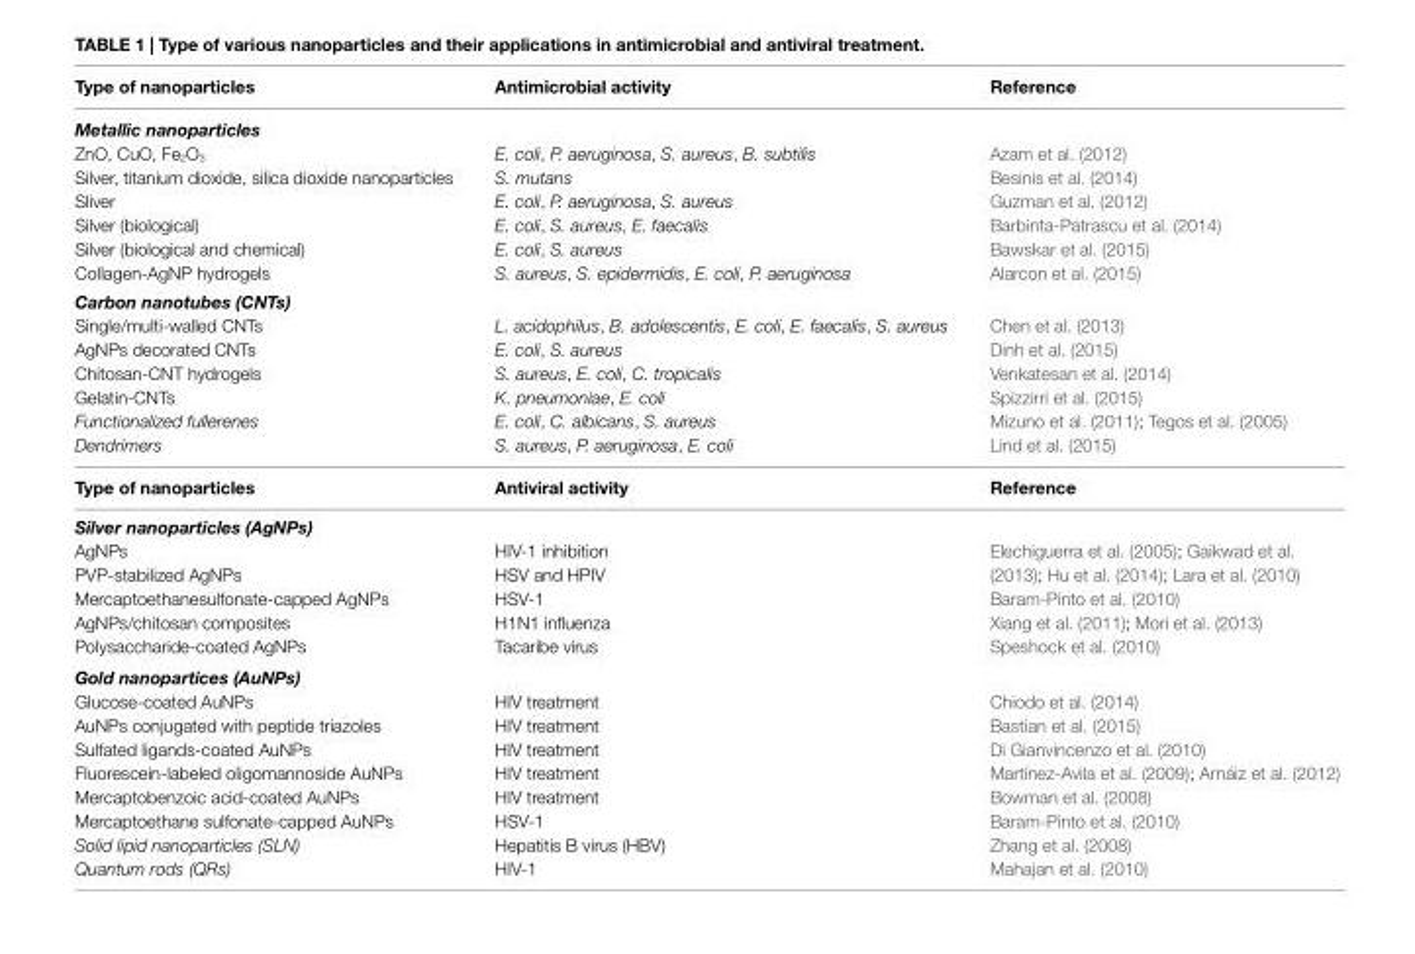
<table><thead><tr><td>Type of nanoparticles</td><td>Antimicrobial activity</td><td>Reference</td></tr></thead><tbody><tr><td colspan="3">Metallic nanoparticles</td></tr><tr><td>ZnO, CuO, Fe<sub>2</sub>O<sub>3</sub></td><td>E. coli, P. aeruginosa, S. aureus, B. subtilis</td><td>Azam et al. (2012)</td></tr><tr><td>Silver, titanium dioxide, silica dioxide nanoparticles</td><td>S. mutans</td><td>Besinis et al. (2014)</td></tr><tr><td>Sliver</td><td>E. coli, P. aeruginosa, S. aureus</td><td>Guzman et al. (2012)</td></tr><tr><td>Silver (biological)</td><td>E. coli, S. aureus, E. faecalis</td><td>Barbinta-Patrascu et al. (2014)</td></tr><tr><td>Silver (biological and chemical)</td><td>E. coli, S. aureus</td><td>Bawskar et al. (2015)</td></tr><tr><td>Collagen-AgNP hydrogels</td><td>S. aureus, S. epidermidis, E. coli, P. aeruginosa</td><td>Alarcon et al. (2015)</td></tr><tr><td colspan="3">Carbon nanotubes (CNTs)</td></tr><tr><td>Single/multi-walled CNTs</td><td>L. acidophilus, B. adolescentis, E. coli, E. faecalis, S. aureus</td><td>Chen et al. (2013)</td></tr><tr><td>AgNPs decorated CNTs</td><td>E. coli, S. aureus</td><td>Dinh et al. (2015)</td></tr><tr><td>Chitosan-CNT hydrogels</td><td>S. aureus, E. coli, C. tropicalis</td><td>Venkatesan et al. (2014)</td></tr><tr><td>Gelatin-CNTs</td><td>K. pneumoniae, E. coli</td><td>Spizzirri et al. (2015)</td></tr><tr><td>Functionalized fullerenes</td><td>E. coli, C. albicans, S. aureus</td><td>Mizuno et al. (2011); Tegos et al. (2005)</td></tr><tr><td>Dendrimers</td><td>S. aureus, P. aeruginosa, E. coli</td><td>Lind et al. (2015)</td></tr><tr><td>Type of nanoparticles</td><td>Antiviral activity</td><td>Reference</td></tr><tr><td colspan="3">Silver nanoparticles (AgNPs)</td></tr><tr><td>AgNPs</td><td>HIV-1 inhibition</td><td rowspan="2">Elechiguerra et al. (2005); Gaikwad et al. (2013); Hu et al. (2014); Lara et al. (2010)</td></tr><tr><td>PVP-stabilized AgNPs</td><td>HSV and HPIV</td></tr><tr><td>Mercaptoethanesulfonate-capped AgNPs</td><td>HSV-1</td><td>Baram-Pinto et al. (2010)</td></tr><tr><td>AgNPs/chitosan composites</td><td>H1N1 influenza</td><td>Xiang et al. (2011); Mori et al. (2013)</td></tr><tr><td>Polysaccharide-coated AgNPs</td><td>Tacaribe virus</td><td>Speshock et al. (2010)</td></tr><tr><td colspan="3">Gold nanopartices (AuNPs)</td></tr><tr><td>Glucose-coated AuNPs</td><td>HIV treatment</td><td>Chiodo et al. (2014)</td></tr><tr><td>AuNPs conjugated with peptide triazoles</td><td>HIV treatment</td><td>Bastian et al. (2015)</td></tr><tr><td>Sulfated ligands-coated AuNPs</td><td>HIV treatment</td><td>Di Gianvincenzo et al. (2010)</td></tr><tr><td>Fluorescein-labeled oligomannoside AuNPs</td><td>HIV treatment</td><td>Martínez-Avila et al. (2009); Arnáiz et al. (2012)</td></tr><tr><td>Mercaptobenzoic acid-coated AuNPs</td><td>HIV treatment</td><td>Bowman et al. (2008)</td></tr><tr><td>Mercaptoethane sulfonate-capped AuNPs</td><td>HSV-1</td><td>Baram-Pinto et al. (2010)</td></tr><tr><td>Solid lipid nanoparticles (SLN)</td><td>Hepatitis B virus (HBV)</td><td>Zhang et al. (2008)</td></tr><tr><td>Quantum rods (QRs)</td><td>HIV-1</td><td>Mahajan et al. (2010)</td></tr></tbody></table>